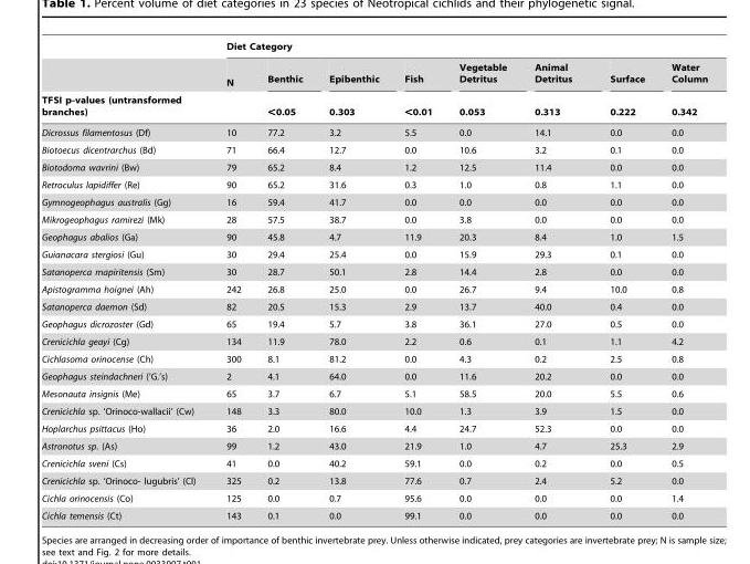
<table><thead><tr><td rowspan="3">TFSI p-values (untransformed branches)</td><td colspan="8">Diet Category</td></tr><tr><td rowspan="2">N</td><td rowspan="2">Benthic &lt;0.05</td><td rowspan="2">Epibenthic 0.303</td><td rowspan="2">Fish &lt;0.01</td><td rowspan="2">Vegetable Detritus 0.053</td><td rowspan="2">Animal Detritus 0.313</td><td rowspan="2">Surface 0.222</td><td rowspan="2">Water Column 0.342</td></tr><tr></tr></thead><tbody><tr><td>Dicrossus filamentosus (Df)</td><td>10</td><td>77.2</td><td>3.2</td><td>5.5</td><td>0.0</td><td>14.1</td><td>0.0</td><td>0.0</td></tr><tr><td>Biotoecus dicentrarchus (Bd)</td><td>71</td><td>66.4</td><td>12.7</td><td>0.0</td><td>10.6</td><td>3.2</td><td>0.1</td><td>0.0</td></tr><tr><td>Biotodoma wavrini (Bw)</td><td>79</td><td>65.2</td><td>8.4</td><td>1.2</td><td>12.5</td><td>11.4</td><td>0.0</td><td>0.0</td></tr><tr><td>Retroculus lapidiffer (Re)</td><td>90</td><td>65.2</td><td>31.6</td><td>0.3</td><td>1.0</td><td>0.8</td><td>1.1</td><td>0.0</td></tr><tr><td>Gymnogeophagus australis (Gg)</td><td>16</td><td>59.4</td><td>41.7</td><td>0.0</td><td>0.0</td><td>0.0</td><td>0.0</td><td>0.0</td></tr><tr><td>Mikrogeophagus ramirezi (Mk)</td><td>28</td><td>57.5</td><td>38.7</td><td>0.0</td><td>3.8</td><td>0.0</td><td>0.0</td><td>0.0</td></tr><tr><td>Geophagus abalios (Ga)</td><td>90</td><td>45.8</td><td>4.7</td><td>11.9</td><td>20.3</td><td>8.4</td><td>1.0</td><td>1.5</td></tr><tr><td>Guianacara stergiosi (Gu)</td><td>30</td><td>29.4</td><td>25.4</td><td>0.0</td><td>15.9</td><td>29.3</td><td>0.1</td><td>0.0</td></tr><tr><td>Satanoperca mapiritensis (Sm)</td><td>30</td><td>28.7</td><td>50.1</td><td>2.8</td><td>14.4</td><td>2.8</td><td>0.0</td><td>0.0</td></tr><tr><td>Apistogramma hoignei (Ah)</td><td>242</td><td>26.8</td><td>25.0</td><td>0.0</td><td>26.7</td><td>9.4</td><td>10.0</td><td>0.8</td></tr><tr><td>Satanoperca daemon (Sd)</td><td>82</td><td>20.5</td><td>15.3</td><td>2.9</td><td>13.7</td><td>40.0</td><td>0.4</td><td>0.0</td></tr><tr><td>Geophagus dicrozoster (Gd)</td><td>65</td><td>19.4</td><td>5.7</td><td>3.8</td><td>36.1</td><td>27.0</td><td>0.5</td><td>0.0</td></tr><tr><td>Crenicichla geayi (Cg)</td><td>134</td><td>11.9</td><td>78.0</td><td>2.2</td><td>0.6</td><td>0.1</td><td>1.1</td><td>4.2</td></tr><tr><td>Cichlasoma orinocense (Ch)</td><td>300</td><td>8.1</td><td>81.2</td><td>0.0</td><td>4.3</td><td>0.2</td><td>2.5</td><td>0.8</td></tr><tr><td>Geophagus steindachneri (‘G.’s)</td><td>2</td><td>4.1</td><td>64.0</td><td>0.0</td><td>11.6</td><td>20.2</td><td>0.0</td><td>0.0</td></tr><tr><td>Mesonauta insignis (Me)</td><td>65</td><td>3.7</td><td>6.7</td><td>5.1</td><td>58.5</td><td>20.0</td><td>5.5</td><td>0.6</td></tr><tr><td>Crenicichla sp. ‘Orinoco-wallacii’ (Cw)</td><td>148</td><td>3.3</td><td>80.0</td><td>10.0</td><td>1.3</td><td>3.9</td><td>1.5</td><td>0.0</td></tr><tr><td>Hoplarchus psittacus (Ho)</td><td>36</td><td>2.0</td><td>16.6</td><td>4.4</td><td>24.7</td><td>52.3</td><td>0.0</td><td>0.0</td></tr><tr><td>Astronotus sp. (As)</td><td>99</td><td>1.2</td><td>43.0</td><td>21.9</td><td>1.0</td><td>4.7</td><td>25.3</td><td>2.9</td></tr><tr><td>Crenicichla sveni (Cs)</td><td>41</td><td>0.0</td><td>40.2</td><td>59.1</td><td>0.0</td><td>0.2</td><td>0.0</td><td>0.5</td></tr><tr><td>Crenicichla sp. ‘Orinoco- lugubris’ (Cl)</td><td>325</td><td>0.2</td><td>13.8</td><td>77.6</td><td>0.7</td><td>2.4</td><td>5.2</td><td>0.0</td></tr><tr><td>Cichla orinocensis (Co)</td><td>125</td><td>0.0</td><td>0.7</td><td>95.6</td><td>0.0</td><td>0.0</td><td>0.0</td><td>1.4</td></tr><tr><td>Cichla temensis (Ct)</td><td>143</td><td>0.1</td><td>0.0</td><td>99.1</td><td>0.0</td><td>0.0</td><td>0.0</td><td>0.0</td></tr></tbody></table>